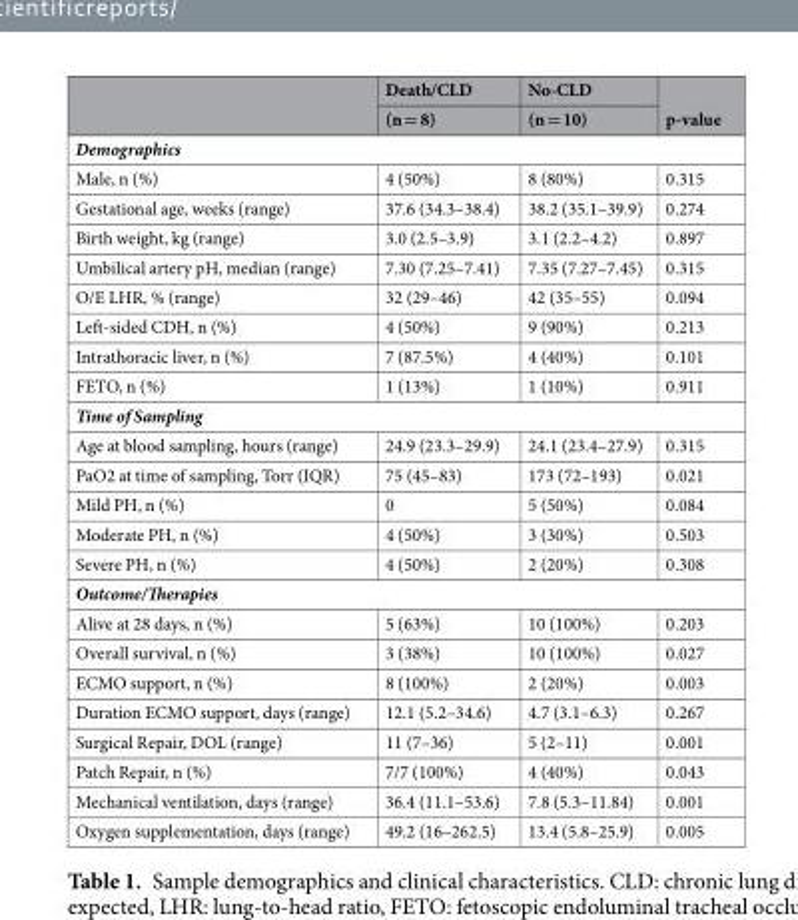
<table><thead><tr><td rowspan="2"></td><td rowspan="2">Death/CLD (n = 8)</td><td rowspan="2">No-CLD (n = 10)</td><td rowspan="2">p-value</td></tr><tr></tr></thead><tbody><tr><td colspan="4">Demographics</td></tr><tr><td>Male, n (%)</td><td>4 (50%)</td><td>8 (80%)</td><td>0.315</td></tr><tr><td>Gestational age, weeks (range)</td><td>37.6 (34.3–38.4)</td><td>38.2 (35.1–39.9)</td><td>0.274</td></tr><tr><td>Birth weight, kg (range)</td><td>3.0 (2.5–3.9)</td><td>3.1 (2.2–4.2)</td><td>0.897</td></tr><tr><td>Umbilical artery pH, median (range)</td><td>7.30 (7.25–7.41)</td><td>7.35 (7.27–7.45)</td><td>0.315</td></tr><tr><td>O/E LHR, % (range)</td><td>32 (29–46)</td><td>42 (35–55)</td><td>0.094</td></tr><tr><td>Left-sided CDH, n (%)</td><td>4 (50%)</td><td>9 (90%)</td><td>0.213</td></tr><tr><td>Intrathoracic liver, n (%)</td><td>7 (87.5%)</td><td>4 (40%)</td><td>0.101</td></tr><tr><td>FETO, n (%)</td><td>1 (13%)</td><td>1 (10%)</td><td>0.911</td></tr><tr><td colspan="4">Time of Sampling</td></tr><tr><td>Age at blood sampling, hours (range)</td><td>24.9 (23.3–29.9)</td><td>24.1 (23.4–27.9)</td><td>0.315</td></tr><tr><td>PaO2 at time of sampling, Torr (IQR)</td><td>75 (45–83)</td><td>173 (72–193)</td><td>0.021</td></tr><tr><td>Mild PH, n (%)</td><td>0</td><td>5 (50%)</td><td>0.084</td></tr><tr><td>Moderate PH, n (%)</td><td>4 (50%)</td><td>3 (30%)</td><td>0.503</td></tr><tr><td>Severe PH, n (%)</td><td>4 (50%)</td><td>2 (20%)</td><td>0.308</td></tr><tr><td colspan="4">Outcome/Therapies</td></tr><tr><td>Alive at 28 days, n (%)</td><td>5 (63%)</td><td>10 (100%)</td><td>0.203</td></tr><tr><td>Overall survival, n (%)</td><td>3 (38%)</td><td>10 (100%)</td><td>0.027</td></tr><tr><td>ECMO support, n (%)</td><td>8 (100%)</td><td>2 (20%)</td><td>0.003</td></tr><tr><td>Duration ECMO support, days (range)</td><td>12.1 (5.2–34.6)</td><td>4.7 (3.1–6.3)</td><td>0.267</td></tr><tr><td>Surgical Repair, DOL (range)</td><td>11 (7–36)</td><td>5 (2–11)</td><td>0.001</td></tr><tr><td>Patch Repair, n (%)</td><td>7/7 (100%)</td><td>4 (40%)</td><td>0.043</td></tr><tr><td>Mechanical ventilation, days (range)</td><td>36.4 (11.1–53.6)</td><td>7.8 (5.3–11.84)</td><td>0.001</td></tr><tr><td>Oxygen supplementation, days (range)</td><td>49.2 (16–262.5)</td><td>13.4 (5.8–25.9)</td><td>0.005</td></tr></tbody></table>